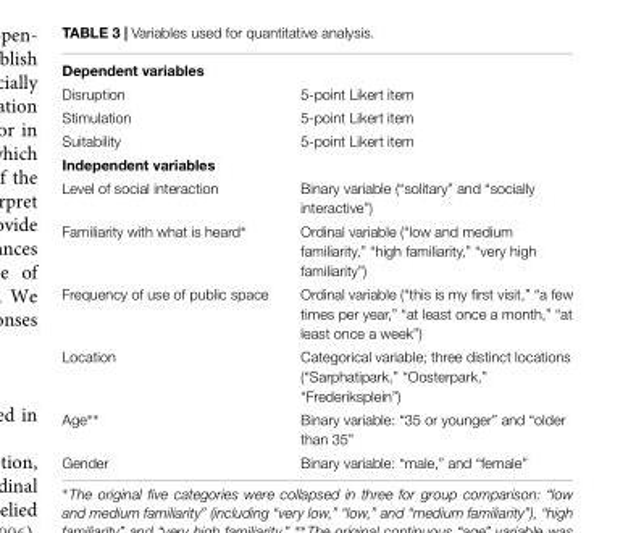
<table><tbody><tr><td colspan="2">Dependent variables</td></tr><tr><td>Disruption</td><td>5-point Likert item</td></tr><tr><td>Stimulation</td><td>5-point Likert item</td></tr><tr><td>Suitability</td><td>5-point Likert item</td></tr><tr><td colspan="2">Independent variables</td></tr><tr><td>Level of social interaction</td><td>Binary variable (“solitary” and “socially interactive”)</td></tr><tr><td>Familiarity with what is heard∗</td><td>Ordinal variable (“low and medium familiarity,” “high familiarity,” “very high familiarity”)</td></tr><tr><td>Frequency of use of public space</td><td>Ordinal variable (“this is my first visit,” “a few times per year,” “at least once a month,” “at least once a week”)</td></tr><tr><td>Location</td><td>Categorical variable; three distinct locations (“Sarphatipark,” “Oosterpark,” “Frederiksplein”)</td></tr><tr><td>Age∗∗</td><td>Binary variable: “35 or younger” and “older than 35”</td></tr><tr><td>Gender</td><td>Binary variable: “male,” and “female”</td></tr></tbody></table>